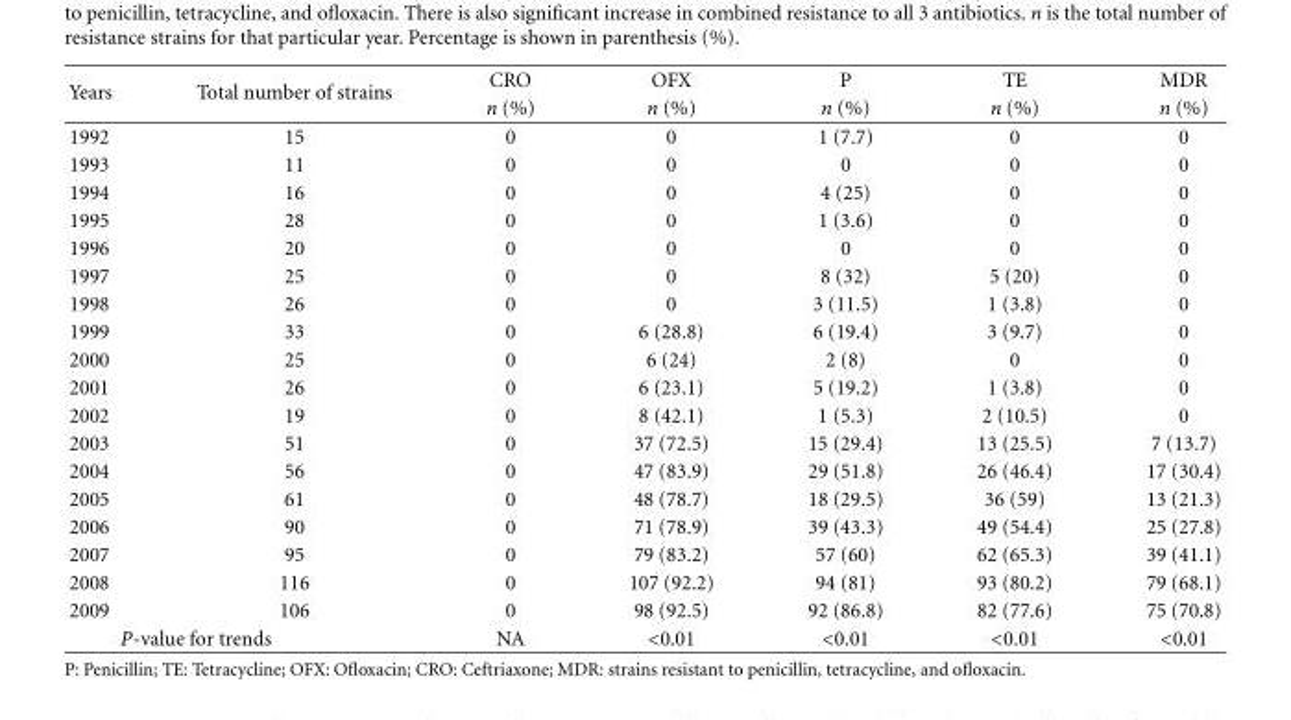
<table><thead><tr><td rowspan="2">Years</td><td rowspan="2">Total number of strains</td><td rowspan="2">CRO n (%)</td><td rowspan="2">OFX n (%)</td><td rowspan="2">P n (%)</td><td rowspan="2">TE n (%)</td><td rowspan="2">MDR n (%)</td></tr><tr></tr></thead><tbody><tr><td>1992</td><td>15</td><td>0</td><td>0</td><td>1 (7.7)</td><td>0</td><td>0</td></tr><tr><td>1993</td><td>11</td><td>0</td><td>0</td><td>0</td><td>0</td><td>0</td></tr><tr><td>1994</td><td>16</td><td>0</td><td>0</td><td>4 (25)</td><td>0</td><td>0</td></tr><tr><td>1995</td><td>28</td><td>0</td><td>0</td><td>1 (3.6)</td><td>0</td><td>0</td></tr><tr><td>1996</td><td>20</td><td>0</td><td>0</td><td>0</td><td>0</td><td>0</td></tr><tr><td>1997</td><td>25</td><td>0</td><td>0</td><td>8 (32)</td><td>5 (20)</td><td>0</td></tr><tr><td>1998</td><td>26</td><td>0</td><td>0</td><td>3 (11.5)</td><td>1 (3.8)</td><td>0</td></tr><tr><td>1999</td><td>33</td><td>0</td><td>6 (28.8)</td><td>6 (19.4)</td><td>3 (9.7)</td><td>0</td></tr><tr><td>2000</td><td>25</td><td>0</td><td>6 (24)</td><td>2 (8)</td><td>0</td><td>0</td></tr><tr><td>2001</td><td>26</td><td>0</td><td>6 (23.1)</td><td>5 (19.2)</td><td>1 (3.8)</td><td>0</td></tr><tr><td>2002</td><td>19</td><td>0</td><td>8 (42.1)</td><td>1 (5.3)</td><td>2 (10.5)</td><td>0</td></tr><tr><td>2003</td><td>51</td><td>0</td><td>37 (72.5)</td><td>15 (29.4)</td><td>13 (25.5)</td><td>7 (13.7)</td></tr><tr><td>2004</td><td>56</td><td>0</td><td>47 (83.9)</td><td>29 (51.8)</td><td>26 (46.4)</td><td>17 (30.4)</td></tr><tr><td>2005</td><td>61</td><td>0</td><td>48 (78.7)</td><td>18 (29.5)</td><td>36 (59)</td><td>13 (21.3)</td></tr><tr><td>2006</td><td>90</td><td>0</td><td>71 (78.9)</td><td>39 (43.3)</td><td>49 (54.4)</td><td>25 (27.8)</td></tr><tr><td>2007</td><td>95</td><td>0</td><td>79 (83.2)</td><td>57 (60)</td><td>62 (65.3)</td><td>39 (41.1)</td></tr><tr><td>2008</td><td>116</td><td>0</td><td>107 (92.2)</td><td>94 (81)</td><td>93 (80.2)</td><td>79 (68.1)</td></tr><tr><td>2009</td><td>106</td><td>0</td><td>98 (92.5)</td><td>92 (86.8)</td><td>82 (77.6)</td><td>75 (70.8)</td></tr><tr><td colspan="2">P-value for trends</td><td>NA</td><td>&lt;0.01</td><td>&lt;0.01</td><td>&lt;0.01</td><td>&lt;0.01</td></tr></tbody></table>